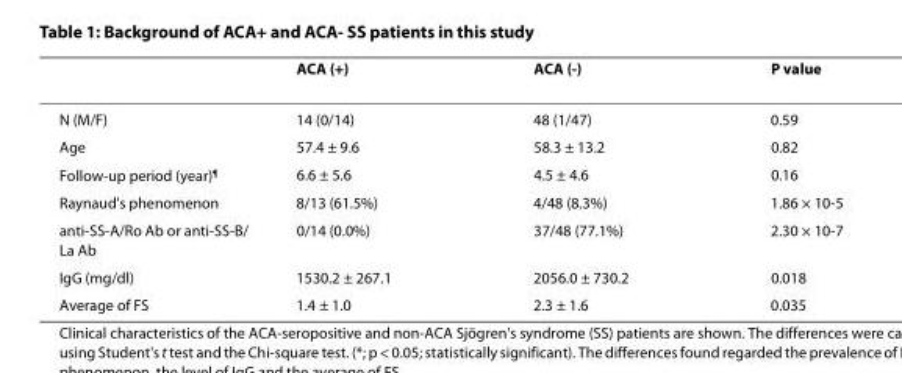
<table><thead><tr><td></td><td>ACA (+)</td><td>ACA (-)</td><td>P value</td></tr></thead><tbody><tr><td>N (M/F)</td><td>14 (0/14)</td><td>48 (1/47)</td><td>0.59</td></tr><tr><td>Age</td><td>57.4 ± 9.6</td><td>58.3 ± 13.2</td><td>0.82</td></tr><tr><td>Follow-up period (year)<sup>¶</sup></td><td>6.6 ± 5.6</td><td>4.5 ± 4.6</td><td>0.16</td></tr><tr><td>Raynaud&#x27;s phenomenon</td><td>8/13 (61.5%)</td><td>4/48 (8.3%)</td><td>1.86 × 10-5</td></tr><tr><td>anti-SS-A/Ro Ab or anti-SS-B/ La Ab</td><td>0/14 (0.0%)</td><td>37/48 (77.1%)</td><td>2.30 × 10-7</td></tr><tr><td>IgG (mg/dl)</td><td>1530.2 ± 267.1</td><td>2056.0 ± 730.2</td><td>0.018</td></tr><tr><td>Average of FS</td><td>1.4 ± 1.0</td><td>2.3 ± 1.6</td><td>0.035</td></tr></tbody></table>